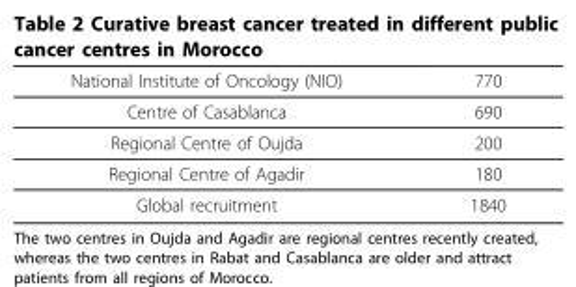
<table><thead><tr><td>National Institute of Oncology (NIO)</td><td>770</td></tr></thead><tbody><tr><td>Centre of Casablanca</td><td>690</td></tr><tr><td>Regional Centre of Oujda</td><td>200</td></tr><tr><td>Regional Centre of Agadir</td><td>180</td></tr><tr><td>Global recruitment</td><td>1840</td></tr></tbody></table>